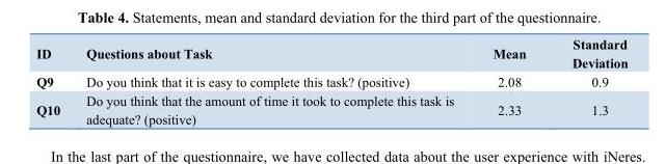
<table><thead><tr><td>ID</td><td>Questions about Task</td><td>Mean</td><td>Standard Deviation</td></tr></thead><tbody><tr><td>Q9</td><td>Do you think that it is easy to complete this task? (positive)</td><td>2.08</td><td>0.9</td></tr><tr><td>Q10</td><td>Do you think that the amount of time it took to complete this task is adequate? (positive)</td><td>2.33</td><td>1.3</td></tr></tbody></table>